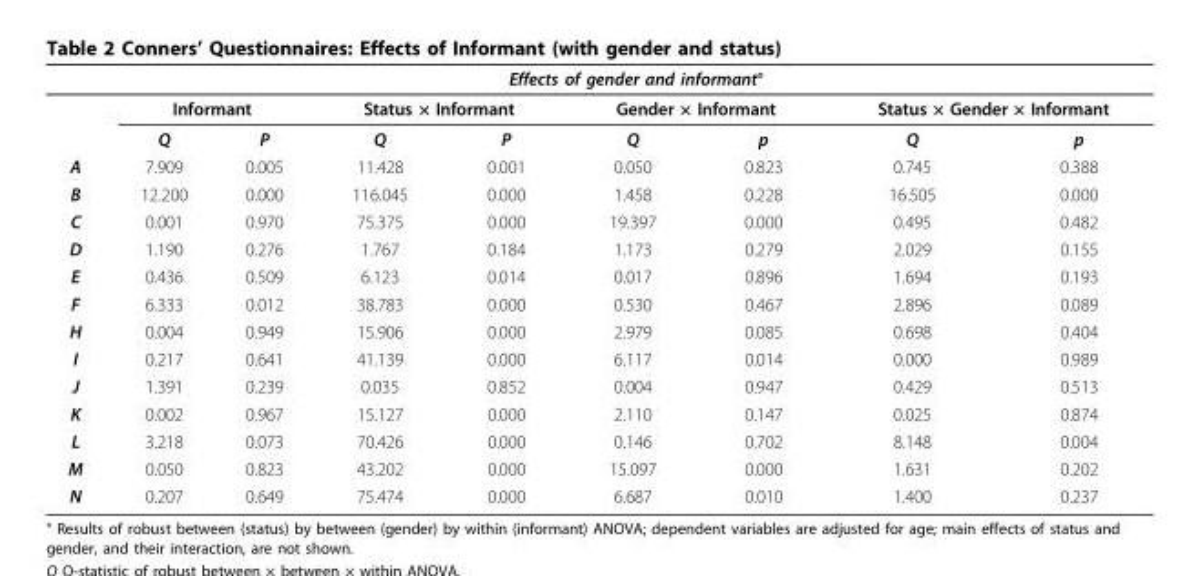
<table><thead><tr><td rowspan="3"></td><td colspan="8">Effects of gender and informant°</td></tr><tr><td colspan="2">Informant</td><td colspan="2">Status × Informant</td><td colspan="2">Gender × Informant</td><td colspan="2">Status × Gender × Informant</td></tr><tr><td>Q</td><td>P</td><td>Q</td><td>P</td><td>Q</td><td>p</td><td>Q</td><td>p</td></tr></thead><tbody><tr><td>A</td><td>7.909</td><td>0.005</td><td>11.428</td><td>0.001</td><td>0.050</td><td>0.823</td><td>0.745</td><td>0.388</td></tr><tr><td>B</td><td>12.200</td><td>0.000</td><td>116.045</td><td>0.000</td><td>1.458</td><td>0.228</td><td>16.505</td><td>0.000</td></tr><tr><td>C</td><td>0.001</td><td>0.970</td><td>75.375</td><td>0.000</td><td>19.397</td><td>0.000</td><td>0.495</td><td>0.482</td></tr><tr><td>D</td><td>1.190</td><td>0.276</td><td>1.767</td><td>0.184</td><td>1.173</td><td>0.279</td><td>2.029</td><td>0.155</td></tr><tr><td>E</td><td>0.436</td><td>0.509</td><td>6.123</td><td>0.014</td><td>0.017</td><td>0.896</td><td>1.694</td><td>0.193</td></tr><tr><td>F</td><td>6.333</td><td>0.012</td><td>38.783</td><td>0.000</td><td>0.530</td><td>0.467</td><td>2.896</td><td>0.089</td></tr><tr><td>H</td><td>0.004</td><td>0.949</td><td>15.906</td><td>0.000</td><td>2.979</td><td>0.085</td><td>0.698</td><td>0.404</td></tr><tr><td>I</td><td>0.217</td><td>0.641</td><td>41.139</td><td>0.000</td><td>6.117</td><td>0.014</td><td>0.000</td><td>0.989</td></tr><tr><td>J</td><td>1.391</td><td>0.239</td><td>0.035</td><td>0.852</td><td>0.004</td><td>0.947</td><td>0.429</td><td>0.513</td></tr><tr><td>K</td><td>0.002</td><td>0.967</td><td>15.127</td><td>0.000</td><td>2.110</td><td>0.147</td><td>0.025</td><td>0.874</td></tr><tr><td>L</td><td>3.218</td><td>0.073</td><td>70.426</td><td>0.000</td><td>0.146</td><td>0.702</td><td>8.148</td><td>0.004</td></tr><tr><td>M</td><td>0.050</td><td>0.823</td><td>43.202</td><td>0.000</td><td>15.097</td><td>0.000</td><td>1.631</td><td>0.202</td></tr><tr><td>N</td><td>0.207</td><td>0.649</td><td>75.474</td><td>0.000</td><td>6.687</td><td>0.010</td><td>1.400</td><td>0.237</td></tr></tbody></table>